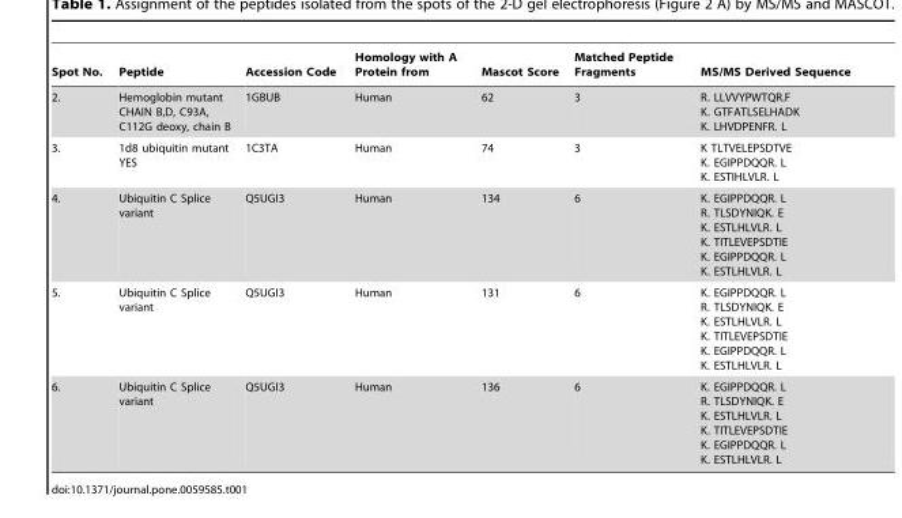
<table><thead><tr><td>Spot No.</td><td>Peptide</td><td>Accession Code</td><td>Homology with A Protein from</td><td>Mascot Score</td><td>Matched Peptide Fragments</td><td>MS/MS Derived Sequence</td></tr></thead><tbody><tr><td>2.</td><td>Hemoglobin mutant CHAIN B,D, C93A, C112G deoxy, chain B</td><td>1GBUB</td><td>Human</td><td>62</td><td>3</td><td>R. LLVVYPWTQR.F K. GTFATLSELHADK K. LHVDPENFR. L</td></tr><tr><td>3.</td><td>1d8 ubiquitin mutant YES</td><td>1C3TA</td><td>Human</td><td>74</td><td>3</td><td>K TLTVELEPSDTVE K. EGIPPDQQR. L K. ESTIHLVLR. L</td></tr><tr><td>4.</td><td>Ubiquitin C Splice variant</td><td>Q5UGI3</td><td>Human</td><td>134</td><td>6</td><td>K. EGIPPDQQR. L R. TLSDYNIQK. E K. ESTLHLVLR. L K. TITLEVEPSDTIE K. EGIPPDQQR. L K. ESTLHLVLR. L</td></tr><tr><td>5.</td><td>Ubiquitin C Splice variant</td><td>Q5UGI3</td><td>Human</td><td>131</td><td>6</td><td>K. EGIPPDQQR. L R. TLSDYNIQK. E K. ESTLHLVLR. L K. TITLEVEPSDTIE K. EGIPPDQQR. L K. ESTLHLVLR. L</td></tr><tr><td>6.</td><td>Ubiquitin C Splice variant</td><td>Q5UGI3</td><td>Human</td><td>136</td><td>6</td><td>K. EGIPPDQQR. L R. TLSDYNIQK. E K. ESTLHLVLR. L K. TITLEVEPSDTIE K. EGIPPDQQR. L K. ESTLHLVLR. L</td></tr></tbody></table>